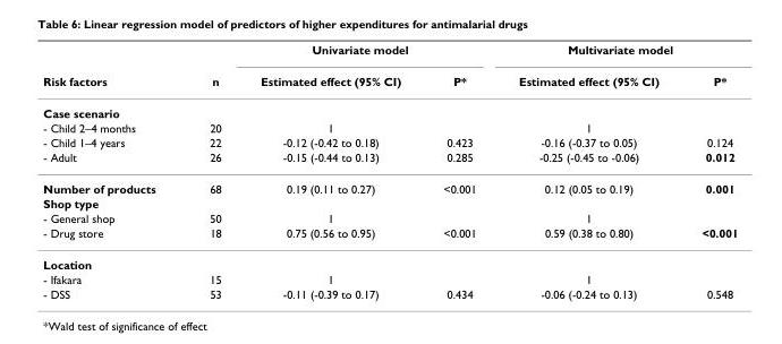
<table><thead><tr><td rowspan="2">Risk factors</td><td rowspan="2">n</td><td colspan="2">Univariate model</td><td colspan="2">Multivariate model</td></tr><tr><td>Estimated effect (95% CI)</td><td>P*</td><td>Estimated effect (95% CI)</td><td>P*</td></tr></thead><tbody><tr><td colspan="6">Case scenario</td></tr><tr><td>- Child 2–4 months</td><td>20</td><td>1</td><td></td><td>1</td><td></td></tr><tr><td>- Child 1–4 years</td><td>22</td><td>-0.12 (-0.42 to 0.18)</td><td>0.423</td><td>-0.16 (-0.37 to 0.05)</td><td>0.124</td></tr><tr><td>- Adult</td><td>26</td><td>-0.15 (-0.44 to 0.13)</td><td>0.285</td><td>-0.25 (-0.45 to -0.06)</td><td>0.012</td></tr><tr><td>Number of products</td><td>68</td><td>0.19 (0.11 to 0.27)</td><td>&lt;0.001</td><td>0.12 (0.05 to 0.19)</td><td>0.001</td></tr><tr><td colspan="6">Shop type</td></tr><tr><td>- General shop</td><td>50</td><td>1</td><td></td><td>1</td><td></td></tr><tr><td>- Drug store</td><td>18</td><td>0.75 (0.56 to 0.95)</td><td>&lt;0.001</td><td>0.59 (0.38 to 0.80)</td><td>&lt;0.001</td></tr><tr><td colspan="6">Location</td></tr><tr><td>- Ifakara</td><td>15</td><td>1</td><td></td><td>1</td><td></td></tr><tr><td>- DSS</td><td>53</td><td>-0.11 (-0.39 to 0.17)</td><td>0.434</td><td>-0.06 (-0.24 to 0.13)</td><td>0.548</td></tr></tbody></table>